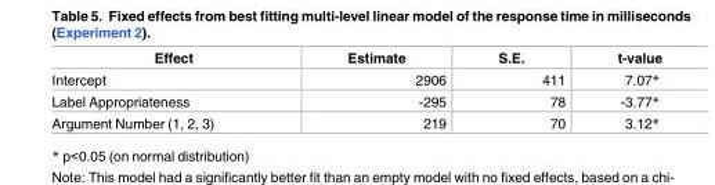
<table><thead><tr><td>Effect</td><td>Estimate</td><td>S.E.</td><td>t-value</td></tr></thead><tbody><tr><td>Intercept</td><td>2906</td><td>411</td><td>7.07*</td></tr><tr><td>Label Appropriateness</td><td>-295</td><td>78</td><td>-3.77*</td></tr><tr><td>Argument Number (1, 2, 3)</td><td>219</td><td>70</td><td>3.12*</td></tr></tbody></table>